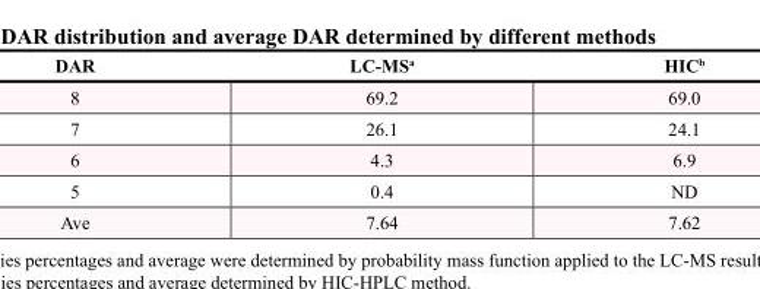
<table><thead><tr><td>DAR</td><td>LC-MS<sup>a</sup></td><td>HIC<sup>b</sup></td></tr></thead><tbody><tr><td>8</td><td>69.2</td><td>69.0</td></tr><tr><td>7</td><td>26.1</td><td>24.1</td></tr><tr><td>6</td><td>4.3</td><td>6.9</td></tr><tr><td>5</td><td>0.4</td><td>ND</td></tr><tr><td>Ave</td><td>7.64</td><td>7.62</td></tr></tbody></table>